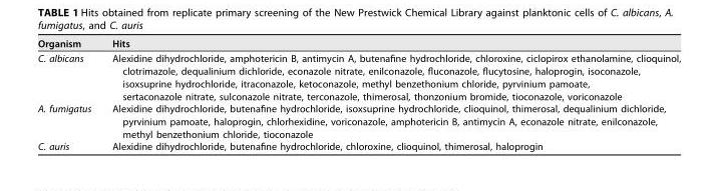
<table><thead><tr><td>Organism</td><td>Hits</td></tr></thead><tbody><tr><td>C. albicans</td><td>Alexidine dihydrochloride, amphotericin B, antimycin A, butenafine hydrochloride, chloroxine, ciclopirox ethanolamine, clioquinol, clotrimazole, dequalinium dichloride, econazole nitrate, enilconazole, fluconazole, flucytosine, haloprogin, isoconazole, isoxsuprine hydrochloride, itraconazole, ketoconazole, methyl benzethonium chloride, pyrvinium pamoate, sertaconazole nitrate, sulconazole nitrate, terconazole, thimerosal, thonzonium bromide, tioconazole, voriconazole</td></tr><tr><td>A. fumigatus</td><td>Alexidine dihydrochloride, butenafine hydrochloride, isoxsuprine hydrochloride, clioquinol, thimerosal, dequalinium dichloride, pyrvinium pamoate, haloprogin, chlorhexidine, voriconazole, amphotericin B, antimycin A, econazole nitrate, enilconazole, methyl benzethonium chloride, tioconazole</td></tr><tr><td>C. auris</td><td>Alexidine dihydrochloride, butenafine hydrochloride, chloroxine, clioquinol, thimerosal, haloprogin</td></tr></tbody></table>